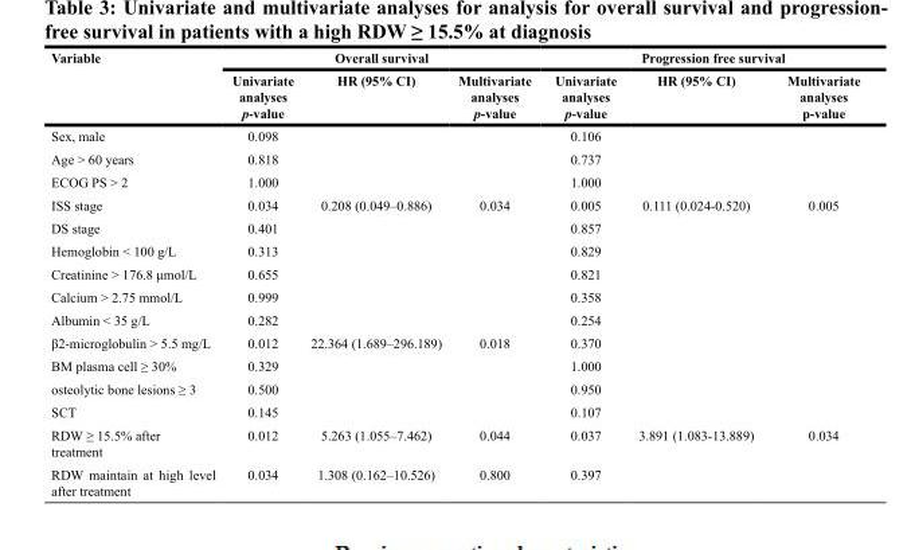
<table><thead><tr><td rowspan="2">Variable</td><td colspan="3">Overall survival</td><td colspan="3">Progression free survival</td></tr><tr><td>Univariate analyses p-value</td><td>HR (95% CI)</td><td>Multivariate analyses p-value</td><td>Univariate analyses p-value</td><td>HR (95% CI)</td><td>Multivariate analyses p-value</td></tr></thead><tbody><tr><td>Sex, male</td><td>0.098</td><td></td><td></td><td>0.106</td><td></td><td></td></tr><tr><td>Age &gt; 60 years</td><td>0.818</td><td></td><td></td><td>0.737</td><td></td><td></td></tr><tr><td>ECOG PS &gt; 2</td><td>1.000</td><td></td><td></td><td>1.000</td><td></td><td></td></tr><tr><td>ISS stage</td><td>0.034</td><td>0.208 (0.049–0.886)</td><td>0.034</td><td>0.005</td><td>0.111 (0.024-0.520)</td><td>0.005</td></tr><tr><td>DS stage</td><td>0.401</td><td></td><td></td><td>0.857</td><td></td><td></td></tr><tr><td>Hemoglobin &lt; 100 g/L</td><td>0.313</td><td></td><td></td><td>0.829</td><td></td><td></td></tr><tr><td>Creatinine &gt; 176.8 μmol/L</td><td>0.655</td><td></td><td></td><td>0.821</td><td></td><td></td></tr><tr><td>Calcium &gt; 2.75 mmol/L</td><td>0.999</td><td></td><td></td><td>0.358</td><td></td><td></td></tr><tr><td>Albumin &lt; 35 g/L</td><td>0.282</td><td></td><td></td><td>0.254</td><td></td><td></td></tr><tr><td>β2-microglobulin &gt; 5.5 mg/L</td><td>0.012</td><td>22.364 (1.689–296.189)</td><td>0.018</td><td>0.370</td><td></td><td></td></tr><tr><td>BM plasma cell ≥ 30%</td><td>0.329</td><td></td><td></td><td>1.000</td><td></td><td></td></tr><tr><td>osteolytic bone lesions ≥ 3</td><td>0.500</td><td></td><td></td><td>0.950</td><td></td><td></td></tr><tr><td>SCT</td><td>0.145</td><td></td><td></td><td>0.107</td><td></td><td></td></tr><tr><td>RDW ≥ 15.5% after treatment</td><td>0.012</td><td>5.263 (1.055–7.462)</td><td>0.044</td><td>0.037</td><td>3.891 (1.083-13.889)</td><td>0.034</td></tr><tr><td>RDW maintain at high level after treatment</td><td>0.034</td><td>1.308 (0.162–10.526)</td><td>0.800</td><td>0.397</td><td></td><td></td></tr></tbody></table>